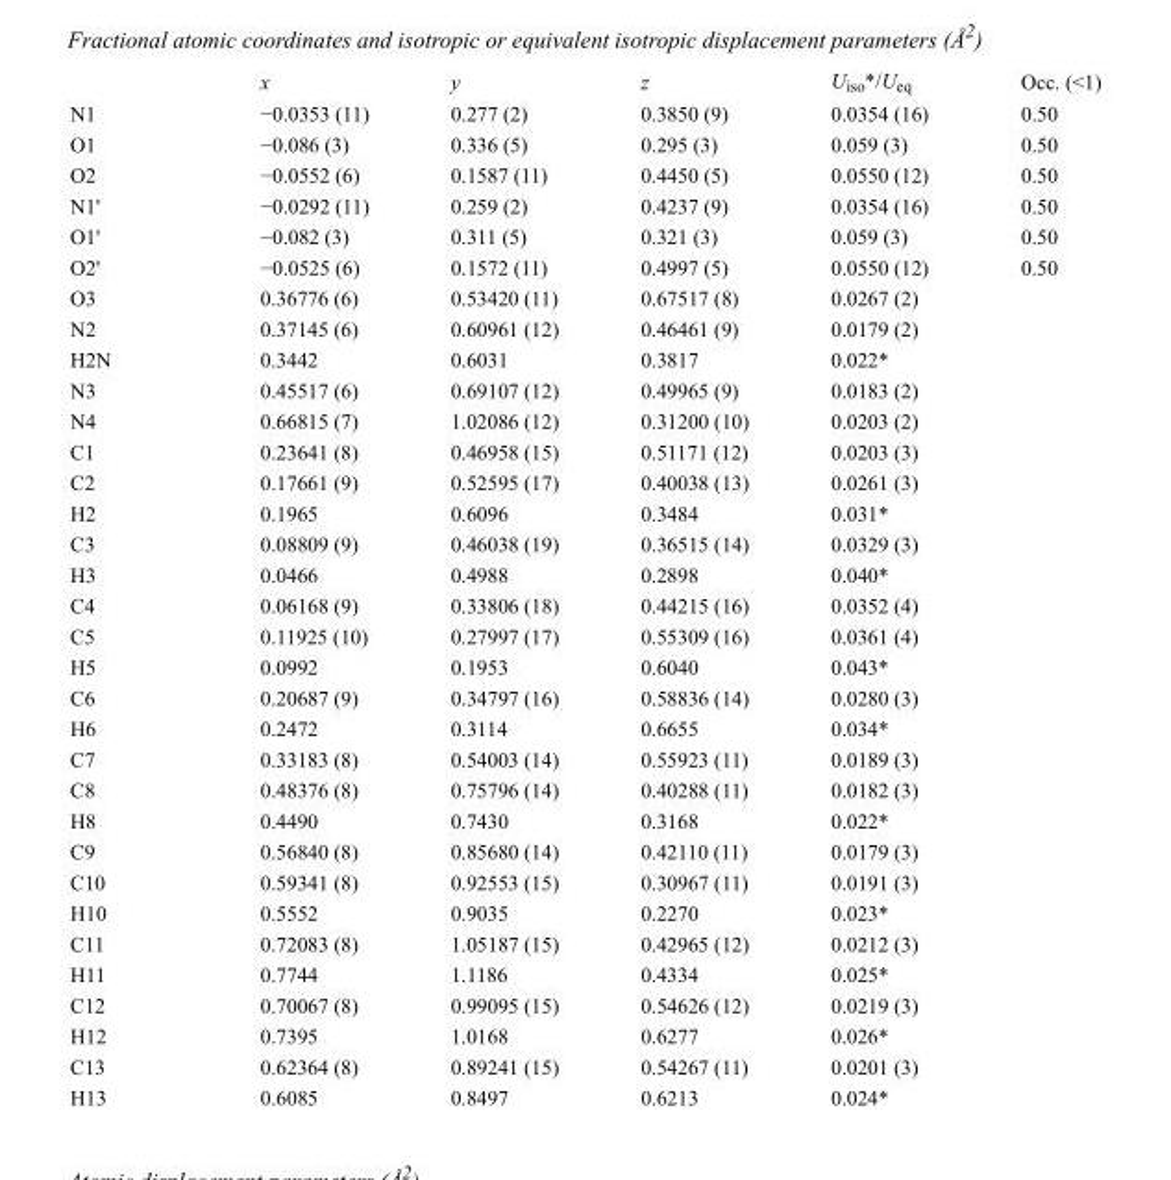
<table><thead><tr><td></td><td>x</td><td>y</td><td>z</td><td>U<sub>iso</sub>*/U<sub>eq</sub></td><td>Occ. (&lt;1)</td></tr></thead><tbody><tr><td>N1</td><td>−0.0353 (11)</td><td>0.277 (2)</td><td>0.3850 (9)</td><td>0.0354 (16)</td><td>0.50</td></tr><tr><td>O1</td><td>−0.086 (3)</td><td>0.336 (5)</td><td>0.295 (3)</td><td>0.059 (3)</td><td>0.50</td></tr><tr><td>O2</td><td>−0.0552 (6)</td><td>0.1587 (11)</td><td>0.4450 (5)</td><td>0.0550 (12)</td><td>0.50</td></tr><tr><td>N1&#x27;</td><td>−0.0292 (11)</td><td>0.259 (2)</td><td>0.4237 (9)</td><td>0.0354 (16)</td><td>0.50</td></tr><tr><td>O1&#x27;</td><td>−0.082 (3)</td><td>0.311 (5)</td><td>0.321 (3)</td><td>0.059 (3)</td><td>0.50</td></tr><tr><td>O2&#x27;</td><td>−0.0525 (6)</td><td>0.1572 (11)</td><td>0.4997 (5)</td><td>0.0550 (12)</td><td>0.50</td></tr><tr><td>O3</td><td>0.36776 (6)</td><td>0.53420 (11)</td><td>0.67517 (8)</td><td>0.0267 (2)</td><td></td></tr><tr><td>N2</td><td>0.37145 (6)</td><td>0.60961 (12)</td><td>0.46461 (9)</td><td>0.0179 (2)</td><td></td></tr><tr><td>H2N</td><td>0.3442</td><td>0.6031</td><td>0.3817</td><td>0.022*</td><td></td></tr><tr><td>N3</td><td>0.45517 (6)</td><td>0.69107 (12)</td><td>0.49965 (9)</td><td>0.0183 (2)</td><td></td></tr><tr><td>N4</td><td>0.66815 (7)</td><td>1.02086 (12)</td><td>0.31200 (10)</td><td>0.0203 (2)</td><td></td></tr><tr><td>C1</td><td>0.23641 (8)</td><td>0.46958 (15)</td><td>0.51171 (12)</td><td>0.0203 (3)</td><td></td></tr><tr><td>C2</td><td>0.17661 (9)</td><td>0.52595 (17)</td><td>0.40038 (13)</td><td>0.0261 (3)</td><td></td></tr><tr><td>H2</td><td>0.1965</td><td>0.6096</td><td>0.3484</td><td>0.031*</td><td></td></tr><tr><td>C3</td><td>0.08809 (9)</td><td>0.46038 (19)</td><td>0.36515 (14)</td><td>0.0329 (3)</td><td></td></tr><tr><td>H3</td><td>0.0466</td><td>0.4988</td><td>0.2898</td><td>0.040*</td><td></td></tr><tr><td>C4</td><td>0.06168 (9)</td><td>0.33806 (18)</td><td>0.44215 (16)</td><td>0.0352 (4)</td><td></td></tr><tr><td>C5</td><td>0.11925 (10)</td><td>0.27997 (17)</td><td>0.55309 (16)</td><td>0.0361 (4)</td><td></td></tr><tr><td>H5</td><td>0.0992</td><td>0.1953</td><td>0.6040</td><td>0.043*</td><td></td></tr><tr><td>C6</td><td>0.20687 (9)</td><td>0.34797 (16)</td><td>0.58836 (14)</td><td>0.0280 (3)</td><td></td></tr><tr><td>H6</td><td>0.2472</td><td>0.3114</td><td>0.6655</td><td>0.034*</td><td></td></tr><tr><td>C7</td><td>0.33183 (8)</td><td>0.54003 (14)</td><td>0.55923 (11)</td><td>0.0189 (3)</td><td></td></tr><tr><td>C8</td><td>0.48376 (8)</td><td>0.75796 (14)</td><td>0.40288 (11)</td><td>0.0182 (3)</td><td></td></tr><tr><td>H8</td><td>0.4490</td><td>0.7430</td><td>0.3168</td><td>0.022*</td><td></td></tr><tr><td>C9</td><td>0.56840 (8)</td><td>0.85680 (14)</td><td>0.42110 (11)</td><td>0.0179 (3)</td><td></td></tr><tr><td>C10</td><td>0.59341 (8)</td><td>0.92553 (15)</td><td>0.30967 (11)</td><td>0.0191 (3)</td><td></td></tr><tr><td>H10</td><td>0.5552</td><td>0.9035</td><td>0.2270</td><td>0.023*</td><td></td></tr><tr><td>C11</td><td>0.72083 (8)</td><td>1.05187 (15)</td><td>0.42965 (12)</td><td>0.0212 (3)</td><td></td></tr><tr><td>H11</td><td>0.7744</td><td>1.1186</td><td>0.4334</td><td>0.025*</td><td></td></tr><tr><td>C12</td><td>0.70067 (8)</td><td>0.99095 (15)</td><td>0.54626 (12)</td><td>0.0219 (3)</td><td></td></tr><tr><td>H12</td><td>0.7395</td><td>1.0168</td><td>0.6277</td><td>0.026*</td><td></td></tr><tr><td>C13</td><td>0.62364 (8)</td><td>0.89241 (15)</td><td>0.54267 (11)</td><td>0.0201 (3)</td><td></td></tr><tr><td>H13</td><td>0.6085</td><td>0.8497</td><td>0.6213</td><td>0.024*</td><td></td></tr></tbody></table>